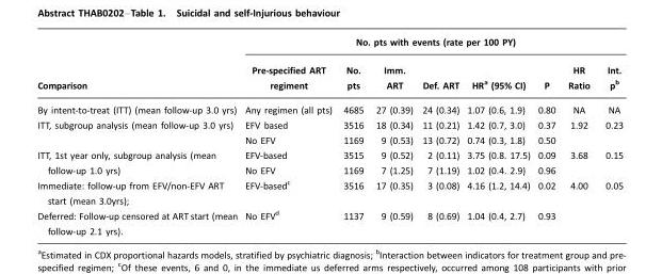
<table><thead><tr><td rowspan="2">Comparison</td><td colspan="8">No. pts with events (rate per 100 PY)</td></tr><tr><td>Pre-specified ART regiment</td><td>No. pts</td><td>Imm. ART</td><td>Def. ART</td><td>HRa (95% CI)</td><td>P</td><td>HR Ratio</td><td>Int. pb</td></tr></thead><tbody><tr><td>By intent-to-treat (ITT) (mean follow-up 3.0 yrs)</td><td>Any regimen (all pts)</td><td>4685</td><td>27 (0.39)</td><td>24 (0.34)</td><td>1.07 (0.6, 1.9)</td><td>0.80</td><td>NA</td><td>NA</td></tr><tr><td rowspan="2">ITT, subgroup analysis (mean follow-up 3.0 yrs)</td><td>EFV based</td><td>3516</td><td>18 (0.34)</td><td>11 (0.21)</td><td>1.42 (0.7, 3.0)</td><td>0.37</td><td>1.92</td><td>0.23</td></tr><tr><td>No EFV</td><td>1169</td><td>9 (0.53)</td><td>13 (0.72)</td><td>0.74 (0.3, 1.8)</td><td>0.50</td><td></td><td></td></tr><tr><td>ITT, 1st year only, subgroup analysis (mean</td><td>EFV-based</td><td>3515</td><td>9 (0.52)</td><td>2 (0.11)</td><td>3.75 (0.8. 17.5)</td><td>0.09</td><td>3.68</td><td>0.15</td></tr><tr><td>follow-up 1.0 yrs)</td><td>No EFV</td><td>1169</td><td>7 (1.25)</td><td>7 (1.19)</td><td>1.02 (0.4. 2.9)</td><td>0.96</td><td></td><td></td></tr><tr><td>Immediate: follow-up from EFV/non-EFV ART start (mean 3.0yrs);</td><td>EFV-basedc</td><td>3516</td><td>17 (0.35)</td><td>3 (0.08)</td><td>4.16 (1.2, 14.4)</td><td>0.02</td><td>4.00</td><td>0.05</td></tr><tr><td>Deferred: Follow-up censored at ART start (mean follow-up 2.1 yrs).</td><td>No EFVd</td><td>1137</td><td>9 (0.59)</td><td>8 (0.69)</td><td>1.04 (0.4, 2.7)</td><td>0.93</td><td></td><td></td></tr></tbody></table>